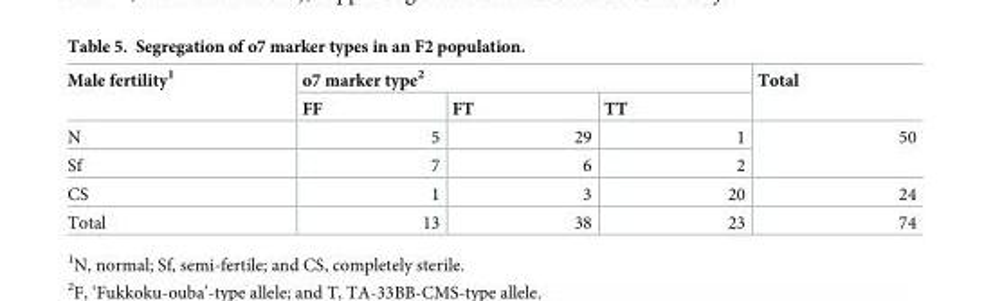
<table><thead><tr><td rowspan="2">Male fertility<sup>1</sup></td><td colspan="3">o7 marker type<sup>2</sup></td><td rowspan="2">Total</td></tr><tr><td>FF</td><td>FT</td><td>TT</td></tr></thead><tbody><tr><td>N</td><td>5</td><td>29</td><td>1</td><td rowspan="2">50</td></tr><tr><td>Sf</td><td>7</td><td>6</td><td>2</td></tr><tr><td>CS</td><td>1</td><td>3</td><td>20</td><td>24</td></tr><tr><td>Total</td><td>13</td><td>38</td><td>23</td><td>74</td></tr></tbody></table>